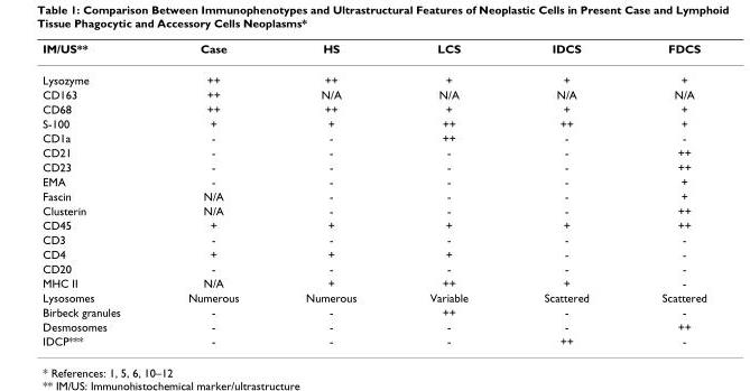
<table><thead><tr><td>IM/US**</td><td>Case</td><td>HS</td><td>LCS</td><td>IDCS</td><td>FDCS</td></tr></thead><tbody><tr><td>Lysozyme</td><td>++</td><td>++</td><td>+</td><td>+</td><td>+</td></tr><tr><td>CD163</td><td>++</td><td>N/A</td><td>N/A</td><td>N/A</td><td>N/A</td></tr><tr><td>CD68</td><td>++</td><td>++</td><td>+</td><td>+</td><td>+</td></tr><tr><td>S-100</td><td>+</td><td>+</td><td>++</td><td>++</td><td>+</td></tr><tr><td>CD1a</td><td>-</td><td>-</td><td>++</td><td>-</td><td>-</td></tr><tr><td>CD21</td><td>-</td><td>-</td><td>-</td><td>-</td><td>++</td></tr><tr><td>CD23</td><td>-</td><td>-</td><td>-</td><td>-</td><td>++</td></tr><tr><td>EMA</td><td>-</td><td>-</td><td>-</td><td>-</td><td>+</td></tr><tr><td>Fascin</td><td>N/A</td><td>-</td><td>-</td><td>-</td><td>+</td></tr><tr><td>Clusterin</td><td>N/A</td><td>-</td><td>-</td><td>-</td><td>++</td></tr><tr><td>CD45</td><td>+</td><td>+</td><td>+</td><td>+</td><td>++</td></tr><tr><td>CD3</td><td>-</td><td>-</td><td>-</td><td>-</td><td>-</td></tr><tr><td>CD4</td><td>+</td><td>+</td><td>+</td><td>-</td><td>-</td></tr><tr><td>CD20</td><td>-</td><td>-</td><td>-</td><td>-</td><td>-</td></tr><tr><td>MHC II</td><td>N/A</td><td>+</td><td>++</td><td>+</td><td>-</td></tr><tr><td>Lysosomes</td><td>Numerous</td><td>Numerous</td><td>Variable</td><td>Scattered</td><td>Scattered</td></tr><tr><td>Birbeck granules</td><td>-</td><td>-</td><td>++</td><td>-</td><td>-</td></tr><tr><td>Desmosomes</td><td>-</td><td>-</td><td>-</td><td>-</td><td>++</td></tr><tr><td>IDCP***</td><td>-</td><td>-</td><td>-</td><td>++</td><td>-</td></tr></tbody></table>